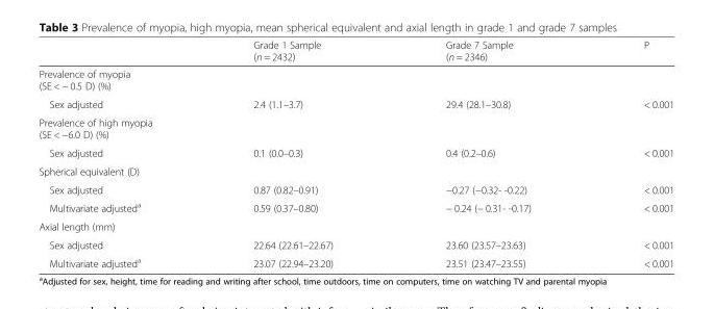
<table><thead><tr><td></td><td>Grade 1 Sample (n = 2432)</td><td>Grade 7 Sample (n = 2346)</td><td>P</td></tr></thead><tbody><tr><td colspan="4">Prevalence of myopia (SE &lt; − 0.5 D) (%)</td></tr><tr><td>Sex adjusted</td><td>2.4 (1.1–3.7)</td><td>29.4 (28.1–30.8)</td><td>&lt; 0.001</td></tr><tr><td colspan="4">Prevalence of high myopia (SE &lt; −6.0 D) (%)</td></tr><tr><td>Sex adjusted</td><td>0.1 (0.0–0.3)</td><td>0.4 (0.2–0.6)</td><td>&lt; 0.001</td></tr><tr><td colspan="4">Spherical equivalent (D)</td></tr><tr><td>Sex adjusted</td><td>0.87 (0.82–0.91)</td><td>−0.27 (−0.32- -0.22)</td><td>&lt; 0.001</td></tr><tr><td>Multivariate adjusted<sup>a</sup></td><td>0.59 (0.37–0.80)</td><td>− 0.24 (− 0.31- -0.17)</td><td>&lt; 0.001</td></tr><tr><td colspan="4">Axial length (mm)</td></tr><tr><td>Sex adjusted</td><td>22.64 (22.61–22.67)</td><td>23.60 (23.57–23.63)</td><td>&lt; 0.001</td></tr><tr><td>Multivariate adjusted<sup>a</sup></td><td>23.07 (22.94–23.20)</td><td>23.51 (23.47–23.55)</td><td>&lt; 0.001</td></tr></tbody></table>